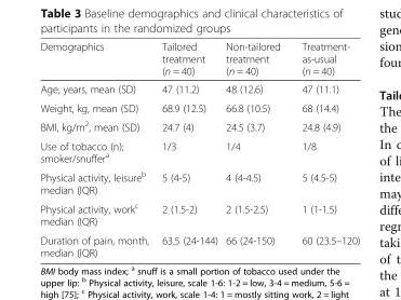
<table><thead><tr><td>Demographics</td><td>Tailored treatment (n = 40)</td><td>Non-tailored treatment (n = 40)</td><td>Treatment- as-usual (n = 40)</td></tr></thead><tbody><tr><td>Age, years, mean (SD)</td><td>47 (11.2)</td><td>48 (12.6)</td><td>47 (11.1)</td></tr><tr><td>Weight, kg, mean (SD)</td><td>68.9 (12.5)</td><td>66.8 (10.5)</td><td>68 (14.4)</td></tr><tr><td>BMI, kg/m<sup>2</sup>, mean (SD)</td><td>24.7 (4)</td><td>24.5 (3.7)</td><td>24.8 (4.9)</td></tr><tr><td>Use of tobacco (n); smoker/snuffer<sup>a</sup></td><td>1/3</td><td>1/4</td><td>1/8</td></tr><tr><td>Physical activity, leisure<sup>b</sup> median (IQR)</td><td>5 (4-5)</td><td>4 (4-4.5)</td><td>5 (4.5-5)</td></tr><tr><td>Physical activity, work<sup>c</sup> median (IQR)</td><td>2 (1.5-2)</td><td>2 (1.5-2.5)</td><td>1 (1-1.5)</td></tr><tr><td>Duration of pain, month, median (IQR)</td><td>63.5 (24-144)</td><td>66 (24-150)</td><td>60 (23.5–120)</td></tr></tbody></table>